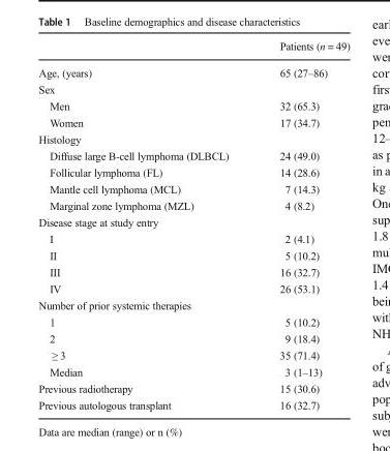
<table><thead><tr><td></td><td>Patients (n = 49)</td></tr></thead><tbody><tr><td>Age, (years)</td><td>65 (27–86)</td></tr><tr><td colspan="2">Sex</td></tr><tr><td>Men</td><td>32 (65.3)</td></tr><tr><td>Women</td><td>17 (34.7)</td></tr><tr><td colspan="2">Histology</td></tr><tr><td>Diffuse large B-cell lymphoma (DLBCL)</td><td>24 (49.0)</td></tr><tr><td>Follicular lymphoma (FL)</td><td>14 (28.6)</td></tr><tr><td>Mantle cell lymphoma (MCL)</td><td>7 (14.3)</td></tr><tr><td>Marginal zone lymphoma (MZL)</td><td>4 (8.2)</td></tr><tr><td colspan="2">Disease stage at study entry</td></tr><tr><td>I</td><td>2 (4.1)</td></tr><tr><td>II</td><td>5 (10.2)</td></tr><tr><td>III</td><td>16 (32.7)</td></tr><tr><td>IV</td><td>26 (53.1)</td></tr><tr><td colspan="2">Number of prior systemic therapies</td></tr><tr><td>1</td><td>5 (10.2)</td></tr><tr><td>2</td><td>9 (18.4)</td></tr><tr><td>≥ 3</td><td>35 (71.4)</td></tr><tr><td>Median</td><td>3 (1–13)</td></tr><tr><td>Previous radiotherapy</td><td>15 (30.6)</td></tr><tr><td>Previous autologous transplant</td><td>16 (32.7)</td></tr></tbody></table>